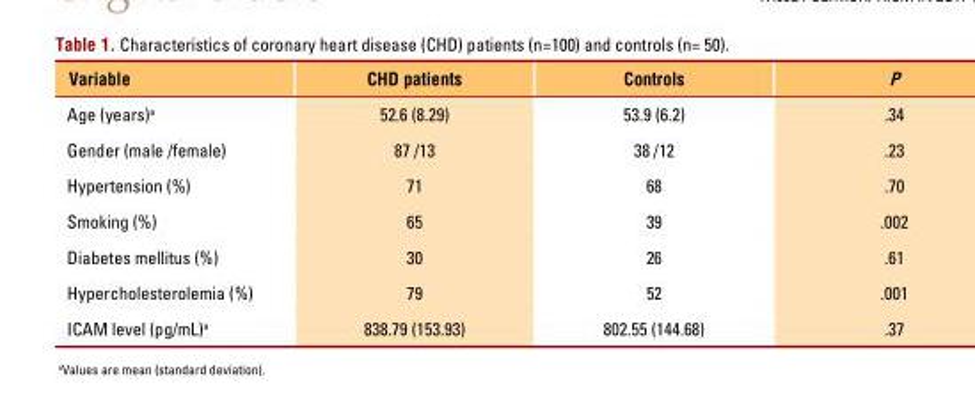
<table><thead><tr><td>Variable</td><td>CHD patients</td><td>Controls</td><td>P</td></tr></thead><tbody><tr><td>Age (years)<sup>a</sup></td><td>52.6 (8.29)</td><td>53.9 (6.2)</td><td>.34</td></tr><tr><td>Gender (male /female)</td><td>87 /13</td><td>38 /12</td><td>.23</td></tr><tr><td>Hypertension (%)</td><td>71</td><td>68</td><td>.70</td></tr><tr><td>Smoking (%)</td><td>65</td><td>39</td><td>.002</td></tr><tr><td>Diabetes mellitus (%)</td><td>30</td><td>26</td><td>.61</td></tr><tr><td>Hypercholesterolemia (%)</td><td>79</td><td>52</td><td>.001</td></tr><tr><td>ICAM level (pg/mL)<sup>a</sup></td><td>838.79 (153.93)</td><td>802.55 (144.68)</td><td>.37</td></tr></tbody></table>